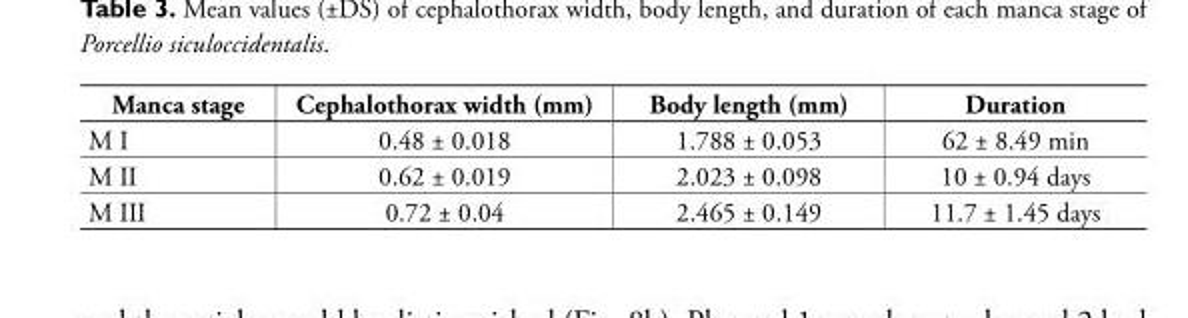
<table><thead><tr><td>Manca stage</td><td>Cephalothorax width (mm)</td><td>Body length (mm)</td><td>Duration</td></tr></thead><tbody><tr><td>M I</td><td>0.48 ± 0.018</td><td>1.788 ± 0.053</td><td>62 ± 8.49 min</td></tr><tr><td>M II</td><td>0.62 ± 0.019</td><td>2.023 ± 0.098</td><td>10 ± 0.94 days</td></tr><tr><td>M III</td><td>0.72 ± 0.04</td><td>2.465 ± 0.149</td><td>11.7 ± 1.45 days</td></tr></tbody></table>